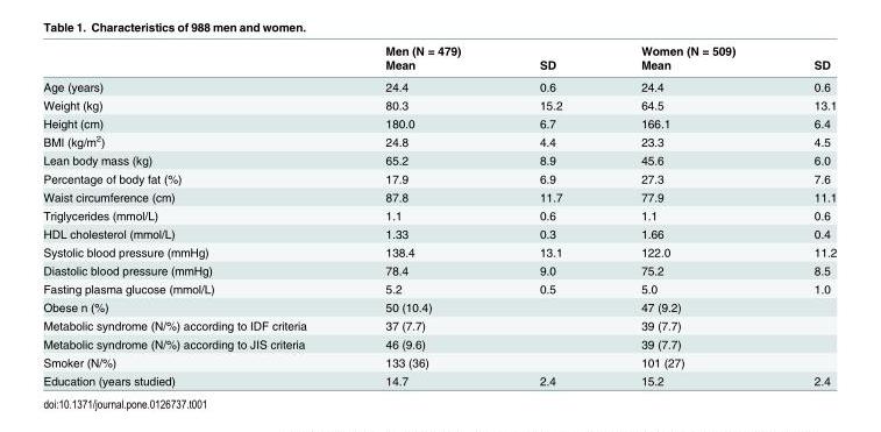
<table><thead><tr><td rowspan="2"></td><td rowspan="2">Men (N = 479) Mean</td><td rowspan="2">SD</td><td rowspan="2">Women (N = 509) Mean</td><td rowspan="2">SD</td></tr><tr></tr></thead><tbody><tr><td>Age (years)</td><td>24.4</td><td>0.6</td><td>24.4</td><td>0.6</td></tr><tr><td>Weight (kg)</td><td>80.3</td><td>15.2</td><td>64.5</td><td>13.1</td></tr><tr><td>Height (cm)</td><td>180.0</td><td>6.7</td><td>166.1</td><td>6.4</td></tr><tr><td>BMI (kg/m<sup>2</sup>)</td><td>24.8</td><td>4.4</td><td>23.3</td><td>4.5</td></tr><tr><td>Lean body mass (kg)</td><td>65.2</td><td>8.9</td><td>45.6</td><td>6.0</td></tr><tr><td>Percentage of body fat (%)</td><td>17.9</td><td>6.9</td><td>27.3</td><td>7.6</td></tr><tr><td>Waist circumference (cm)</td><td>87.8</td><td>11.7</td><td>77.9</td><td>11.1</td></tr><tr><td>Triglycerides (mmol/L)</td><td>1.1</td><td>0.6</td><td>1.1</td><td>0.6</td></tr><tr><td>HDL cholesterol (mmol/L)</td><td>1.33</td><td>0.3</td><td>1.66</td><td>0.4</td></tr><tr><td>Systolic blood pressure (mmHg)</td><td>138.4</td><td>13.1</td><td>122.0</td><td>11.2</td></tr><tr><td>Diastolic blood pressure (mmHg)</td><td>78.4</td><td>9.0</td><td>75.2</td><td>8.5</td></tr><tr><td>Fasting plasma glucose (mmol/L)</td><td>5.2</td><td>0.5</td><td>5.0</td><td>1.0</td></tr><tr><td>Obese n (%)</td><td>50 (10.4)</td><td></td><td>47 (9.2)</td><td></td></tr><tr><td>Metabolic syndrome (N/%) according to IDF criteria</td><td>37 (7.7)</td><td></td><td>39 (7.7)</td><td></td></tr><tr><td>Metabolic syndrome (N/%) according to JIS criteria</td><td>46 (9.6)</td><td></td><td>39 (7.7)</td><td></td></tr><tr><td>Smoker (N/%)</td><td>133 (36)</td><td></td><td>101 (27)</td><td></td></tr><tr><td>Education (years studied)</td><td>14.7</td><td>2.4</td><td>15.2</td><td>2.4</td></tr></tbody></table>